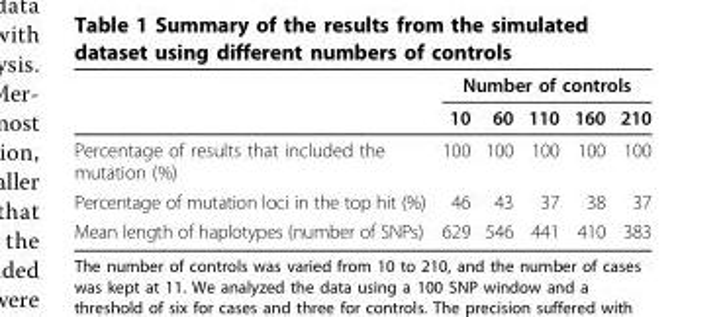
<table><thead><tr><td rowspan="2"></td><td colspan="5">Number of controls</td></tr><tr><td>10</td><td>60</td><td>110</td><td>160</td><td>210</td></tr></thead><tbody><tr><td>Percentage of results that included the mutation (%)</td><td>100</td><td>100</td><td>100</td><td>100</td><td>100</td></tr><tr><td>Percentage of mutation loci in the top hit (%)</td><td>46</td><td>43</td><td>37</td><td>38</td><td>37</td></tr><tr><td>Mean length of haplotypes (number of SNPs)</td><td>629</td><td>546</td><td>441</td><td>410</td><td>383</td></tr></tbody></table>